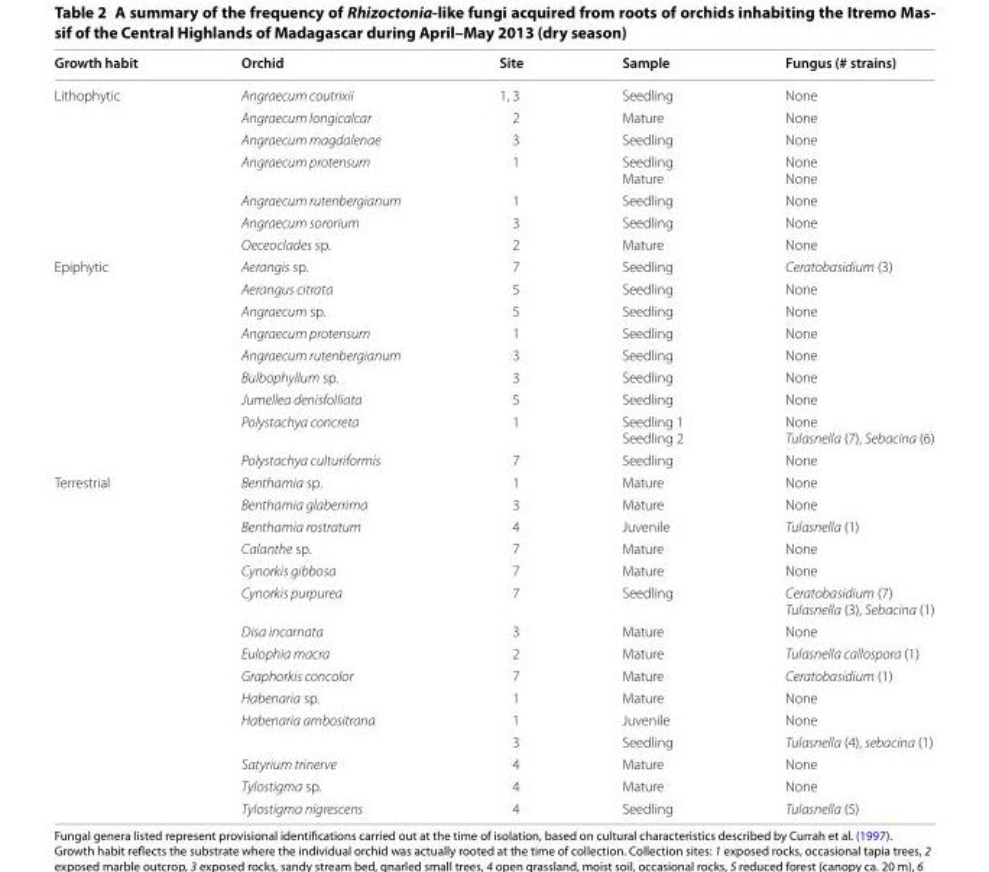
<table><thead><tr><td>Growth habit</td><td>Orchid</td><td>Site</td><td>Sample</td><td>Fungus (# strains)</td></tr></thead><tbody><tr><td rowspan="7">Lithophytic</td><td>Angraecum coutrixii</td><td>1, 3</td><td>Seedling</td><td>None</td></tr><tr><td>Angraecum longicalcar</td><td>2</td><td>Mature</td><td>None</td></tr><tr><td>Angraecum magdalenae</td><td>3</td><td>Seedling</td><td>None</td></tr><tr><td>Angraecum protensum</td><td>1</td><td>Seedling Mature</td><td>None None</td></tr><tr><td>Angraecum rutenbergianum</td><td>1</td><td>Seedling</td><td>None</td></tr><tr><td>Angraecum sororium</td><td>3</td><td>Seedling</td><td>None</td></tr><tr><td>Oeceoclades sp.</td><td>2</td><td>Mature</td><td>None</td></tr><tr><td rowspan="9">Epiphytic</td><td>Aerangis sp.</td><td>7</td><td>Seedling</td><td>Ceratobasidium (3)</td></tr><tr><td>Aerangus citrata</td><td>5</td><td>Seedling</td><td>None</td></tr><tr><td>Angraecum sp.</td><td>5</td><td>Seedling</td><td>None</td></tr><tr><td>Angraecum protensum</td><td>1</td><td>Seedling</td><td>None</td></tr><tr><td>Angraecum rutenbergianum</td><td>3</td><td>Seedling</td><td>None</td></tr><tr><td>Bulbophyllum sp.</td><td>3</td><td>Seedling</td><td>None</td></tr><tr><td>Jumellea denisfolliata</td><td>5</td><td>Seedling</td><td>None</td></tr><tr><td>Polystachya concreta</td><td>1</td><td>Seedling 1 Seedling 2</td><td>None Tulasnella (7), Sebacina (6)</td></tr><tr><td>Polystachya culturiformis</td><td>7</td><td>Seedling</td><td>None</td></tr><tr><td rowspan="15">Terrestrial</td><td>Benthamia sp.</td><td>1</td><td>Mature</td><td>None</td></tr><tr><td>Benthamia glaberrima</td><td>3</td><td>Mature</td><td>None</td></tr><tr><td>Benthamia rostratum</td><td>4</td><td>Juvenile</td><td>Tulasnella (1)</td></tr><tr><td>Calanthe sp.</td><td>7</td><td>Mature</td><td>None</td></tr><tr><td>Cynorkis gibbosa</td><td>7</td><td>Mature</td><td>None</td></tr><tr><td>Cynorkis purpurea</td><td>7</td><td>Seedling</td><td>Ceratobasidium (7) Tulasnella (3), Sebacina (1)</td></tr><tr><td>Disa incarnata</td><td>3</td><td>Mature</td><td>None</td></tr><tr><td>Eulophia macra</td><td>2</td><td>Mature</td><td>Tulasnella callospora (1)</td></tr><tr><td>Graphorkis concolor</td><td>7</td><td>Mature</td><td>Ceratobasidium (1)</td></tr><tr><td>Habenaria sp.</td><td>1</td><td>Mature</td><td>None</td></tr><tr><td rowspan="2">Habenaria ambositrana</td><td>1</td><td>Juvenile</td><td>None</td></tr><tr><td>3</td><td>Seedling</td><td>Tulasnella (4), sebacina (1)</td></tr><tr><td>Satyrium trinerve</td><td>4</td><td>Mature</td><td>None</td></tr><tr><td>Tylostigma sp.</td><td>4</td><td>Mature</td><td>None</td></tr><tr><td>Tylostigma nigrescens</td><td>4</td><td>Seedling</td><td>Tulasnella (5)</td></tr></tbody></table>